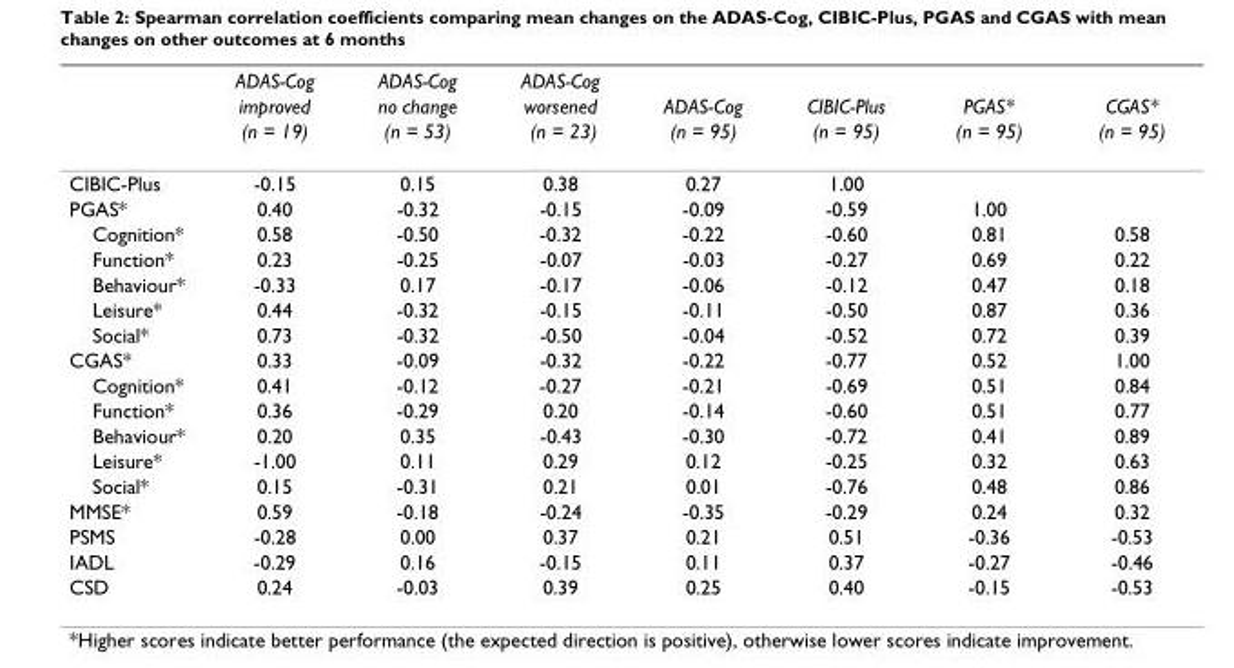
<table><thead><tr><td rowspan="3"></td><td rowspan="3">ADAS-Cog improved (n = 19)</td><td rowspan="3">ADAS-Cog no change (n = 53)</td><td rowspan="3">ADAS-Cog worsened (n = 23)</td><td rowspan="3">ADAS-Cog (n = 95)</td><td rowspan="3">CIBIC-Plus (n = 95)</td><td rowspan="3">PGAS* (n = 95)</td><td rowspan="3">CGAS* (n = 95)</td></tr><tr></tr><tr></tr></thead><tbody><tr><td>CIBIC-Plus</td><td>-0.15</td><td>0.15</td><td>0.38</td><td>0.27</td><td>1.00</td><td></td><td></td></tr><tr><td>PGAS*</td><td>0.40</td><td>-0.32</td><td>-0.15</td><td>-0.09</td><td>-0.59</td><td>1.00</td><td></td></tr><tr><td>Cognition*</td><td>0.58</td><td>-0.50</td><td>-0.32</td><td>-0.22</td><td>-0.60</td><td>0.81</td><td>0.58</td></tr><tr><td>Function*</td><td>0.23</td><td>-0.25</td><td>-0.07</td><td>-0.03</td><td>-0.27</td><td>0.69</td><td>0.22</td></tr><tr><td>Behaviour*</td><td>-0.33</td><td>0.17</td><td>-0.17</td><td>-0.06</td><td>-0.12</td><td>0.47</td><td>0.18</td></tr><tr><td>Leisure*</td><td>0.44</td><td>-0.32</td><td>-0.15</td><td>-0.11</td><td>-0.50</td><td>0.87</td><td>0.36</td></tr><tr><td>Social*</td><td>0.73</td><td>-0.32</td><td>-0.50</td><td>-0.04</td><td>-0.52</td><td>0.72</td><td>0.39</td></tr><tr><td>CGAS*</td><td>0.33</td><td>-0.09</td><td>-0.32</td><td>-0.22</td><td>-0.77</td><td>0.52</td><td>1.00</td></tr><tr><td>Cognition*</td><td>0.41</td><td>-0.12</td><td>-0.27</td><td>-0.21</td><td>-0.69</td><td>0.51</td><td>0.84</td></tr><tr><td>Function*</td><td>0.36</td><td>-0.29</td><td>0.20</td><td>-0.14</td><td>-0.60</td><td>0.51</td><td>0.77</td></tr><tr><td>Behaviour*</td><td>0.20</td><td>0.35</td><td>-0.43</td><td>-0.30</td><td>-0.72</td><td>0.41</td><td>0.89</td></tr><tr><td>Leisure*</td><td>-1.00</td><td>0.11</td><td>0.29</td><td>0.12</td><td>-0.25</td><td>0.32</td><td>0.63</td></tr><tr><td>Social*</td><td>0.15</td><td>-0.31</td><td>0.21</td><td>0.01</td><td>-0.76</td><td>0.48</td><td>0.86</td></tr><tr><td>MMSE*</td><td>0.59</td><td>-0.18</td><td>-0.24</td><td>-0.35</td><td>-0.29</td><td>0.24</td><td>0.32</td></tr><tr><td>PSMS</td><td>-0.28</td><td>0.00</td><td>0.37</td><td>0.21</td><td>0.51</td><td>-0.36</td><td>-0.53</td></tr><tr><td>IADL</td><td>-0.29</td><td>0.16</td><td>-0.15</td><td>0.11</td><td>0.37</td><td>-0.27</td><td>-0.46</td></tr><tr><td>CSD</td><td>0.24</td><td>-0.03</td><td>0.39</td><td>0.25</td><td>0.40</td><td>-0.15</td><td>-0.53</td></tr></tbody></table>